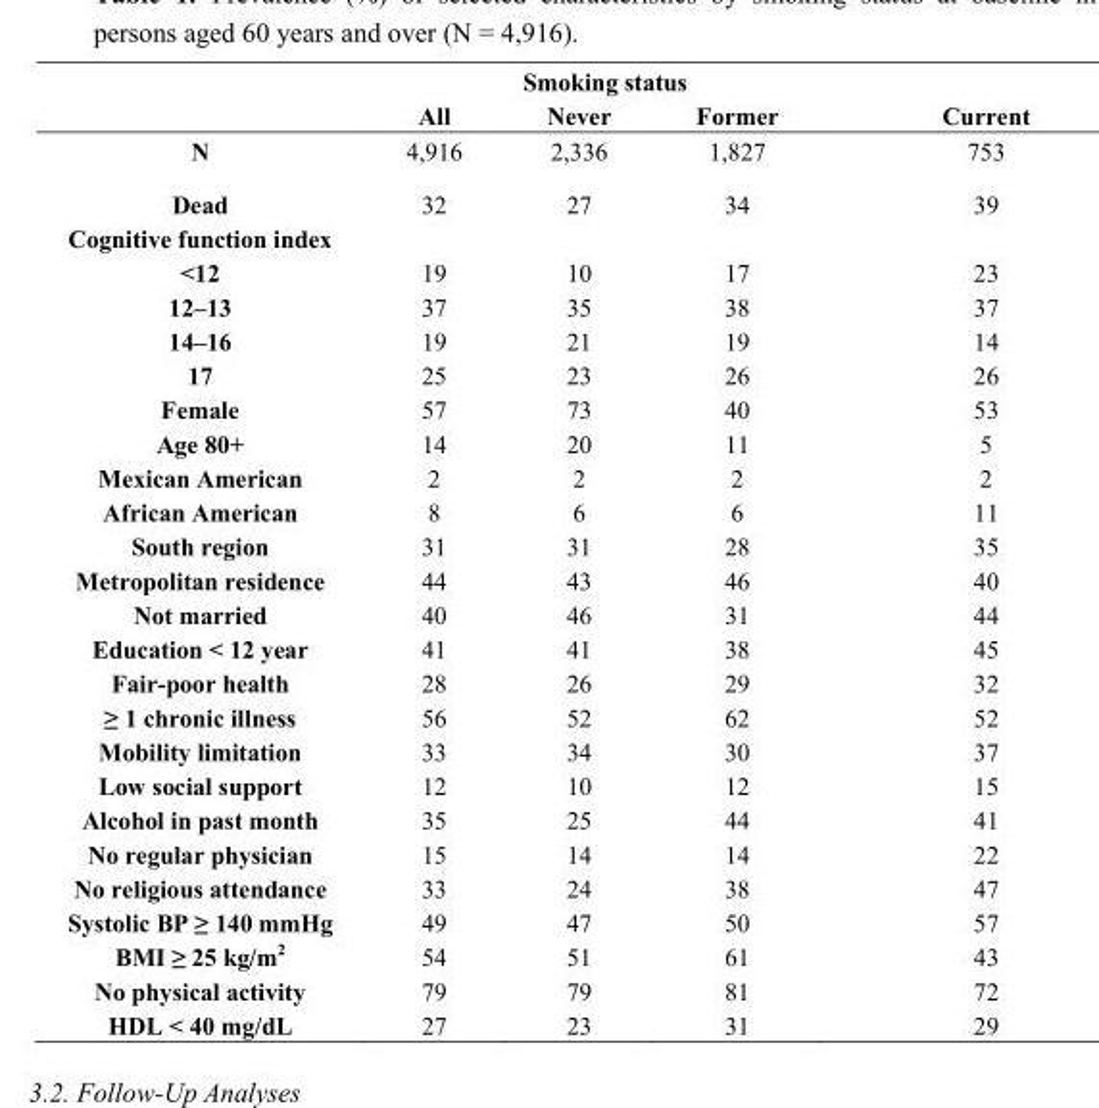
<table><thead><tr><td rowspan="2"></td><td colspan="3">Smoking status</td><td rowspan="2">Current</td></tr><tr><td>All</td><td>Never</td><td>Former</td></tr></thead><tbody><tr><td>N</td><td>4,916</td><td>2,336</td><td>1,827</td><td>753</td></tr><tr><td>Dead</td><td>32</td><td>27</td><td>34</td><td>39</td></tr><tr><td colspan="5">Cognitive function index</td></tr><tr><td>&lt;12</td><td>19</td><td>10</td><td>17</td><td>23</td></tr><tr><td>12–13</td><td>37</td><td>35</td><td>38</td><td>37</td></tr><tr><td>14–16</td><td>19</td><td>21</td><td>19</td><td>14</td></tr><tr><td>17</td><td>25</td><td>23</td><td>26</td><td>26</td></tr><tr><td>Female</td><td>57</td><td>73</td><td>40</td><td>53</td></tr><tr><td>Age 80+</td><td>14</td><td>20</td><td>11</td><td>5</td></tr><tr><td>Mexican American</td><td>2</td><td>2</td><td>2</td><td>2</td></tr><tr><td>African American</td><td>8</td><td>6</td><td>6</td><td>11</td></tr><tr><td>South region</td><td>31</td><td>31</td><td>28</td><td>35</td></tr><tr><td>Metropolitan residence</td><td>44</td><td>43</td><td>46</td><td>40</td></tr><tr><td>Not married</td><td>40</td><td>46</td><td>31</td><td>44</td></tr><tr><td>Education &lt; 12 year</td><td>41</td><td>41</td><td>38</td><td>45</td></tr><tr><td>Fair-poor health</td><td>28</td><td>26</td><td>29</td><td>32</td></tr><tr><td>≥ 1 chronic illness</td><td>56</td><td>52</td><td>62</td><td>52</td></tr><tr><td>Mobility limitation</td><td>33</td><td>34</td><td>30</td><td>37</td></tr><tr><td>Low social support</td><td>12</td><td>10</td><td>12</td><td>15</td></tr><tr><td>Alcohol in past month</td><td>35</td><td>25</td><td>44</td><td>41</td></tr><tr><td>No regular physician</td><td>15</td><td>14</td><td>14</td><td>22</td></tr><tr><td>No religious attendance</td><td>33</td><td>24</td><td>38</td><td>47</td></tr><tr><td>Systolic BP ≥ 140 mmHg</td><td>49</td><td>47</td><td>50</td><td>57</td></tr><tr><td>BMI ≥ 25 kg/m<sup>2</sup></td><td>54</td><td>51</td><td>61</td><td>43</td></tr><tr><td>No physical activity</td><td>79</td><td>79</td><td>81</td><td>72</td></tr><tr><td>HDL &lt; 40 mg/dL</td><td>27</td><td>23</td><td>31</td><td>29</td></tr></tbody></table>